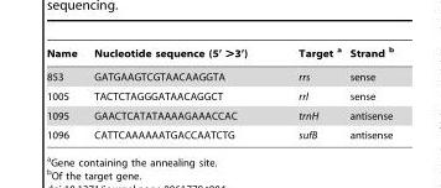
<table><thead><tr><td>Name</td><td>Nucleotide sequence (5’ &gt;3’)</td><td>Target a</td><td>Strand b</td></tr></thead><tbody><tr><td>853</td><td>GATGAAGTCGTAACAAGGTA</td><td>rrs</td><td>sense</td></tr><tr><td>1005</td><td>TACTCTAGGGATAACAGGCT</td><td>rrl</td><td>sense</td></tr><tr><td>1095</td><td>GAACTCATATAAAAGAAACCAC</td><td>trnH</td><td>antisense</td></tr><tr><td>1096</td><td>CATTCAAAAAATGACCAATCTG</td><td>sufB</td><td>antisense</td></tr></tbody></table>